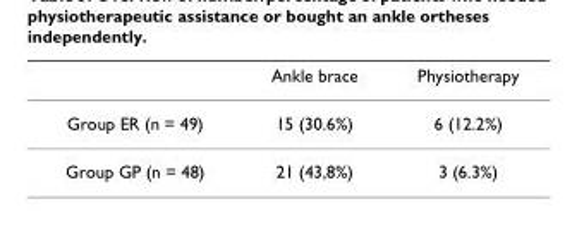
<table><thead><tr><td></td><td>Ankle brace</td><td>Physiotherapy</td></tr></thead><tbody><tr><td>Group ER (n = 49)</td><td>15 (30.6%)</td><td>6 (12.2%)</td></tr><tr><td>Group GP (n = 48)</td><td>21 (43,8%)</td><td>3 (6.3%)</td></tr></tbody></table>